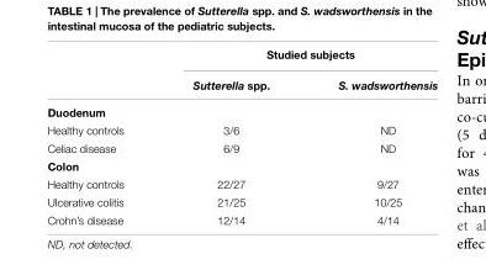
<table><thead><tr><td rowspan="2"></td><td colspan="2">Studied subjects</td></tr><tr><td>Sutterella spp.</td><td>S. wadsworthensis</td></tr></thead><tbody><tr><td colspan="3">Duodenum</td></tr><tr><td>Healthy controls</td><td>3/6</td><td>ND</td></tr><tr><td>Celiac disease</td><td>6/9</td><td>ND</td></tr><tr><td colspan="3">Colon</td></tr><tr><td>Healthy controls</td><td>22/27</td><td>9/27</td></tr><tr><td>Ulcerative colitis</td><td>21/25</td><td>10/25</td></tr><tr><td>Crohn’s disease</td><td>12/14</td><td>4/14</td></tr></tbody></table>